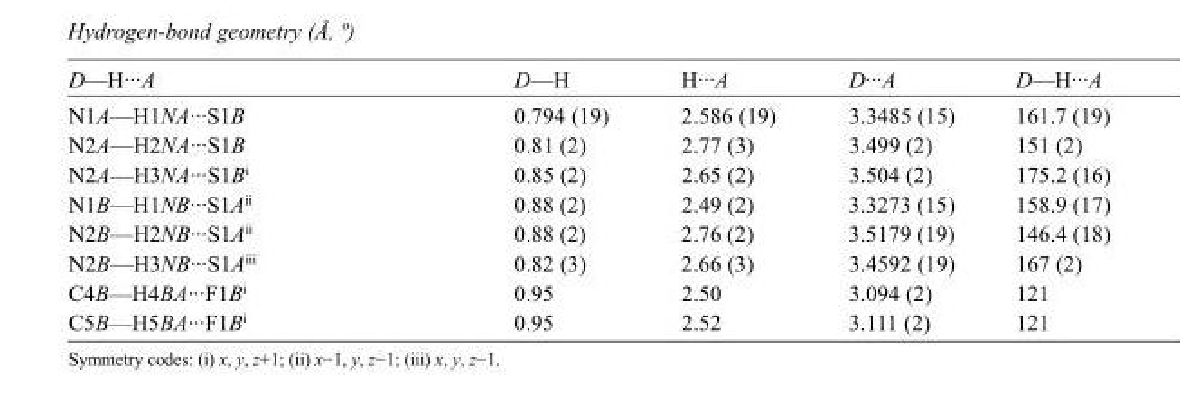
<table><tbody><tr><td>D—H···A</td><td>D—H</td><td>H···A</td><td>D···A</td><td>D—H···A</td></tr><tr><td>N1A—H1NA···S1B</td><td>0.794 (19)</td><td>2.586 (19)</td><td>3.3485 (15)</td><td>161.7 (19)</td></tr><tr><td>N2A—H2NA···S1B</td><td>0.81 (2)</td><td>2.77 (3)</td><td>3.499 (2)</td><td>151 (2)</td></tr><tr><td>N2A—H3NA···S1B<sup>i</sup></td><td>0.85 (2)</td><td>2.65 (2)</td><td>3.504 (2)</td><td>175.2 (16)</td></tr><tr><td>N1B—H1NB···S1A<sup>ii</sup></td><td>0.88 (2)</td><td>2.49 (2)</td><td>3.3273 (15)</td><td>158.9 (17)</td></tr><tr><td>N2B—H2NB···S1A<sup>ii</sup></td><td>0.88 (2)</td><td>2.76 (2)</td><td>3.5179 (19)</td><td>146.4 (18)</td></tr><tr><td>N2B—H3NB···S1A<sup>iii</sup></td><td>0.82 (3)</td><td>2.66 (3)</td><td>3.4592 (19)</td><td>167 (2)</td></tr><tr><td>C4B—H4BA···F1B<sup>i</sup></td><td>0.95</td><td>2.50</td><td>3.094 (2)</td><td>121</td></tr><tr><td>C5B—H5BA···F1B<sup>i</sup></td><td>0.95</td><td>2.52</td><td>3.111 (2)</td><td>121</td></tr></tbody></table>